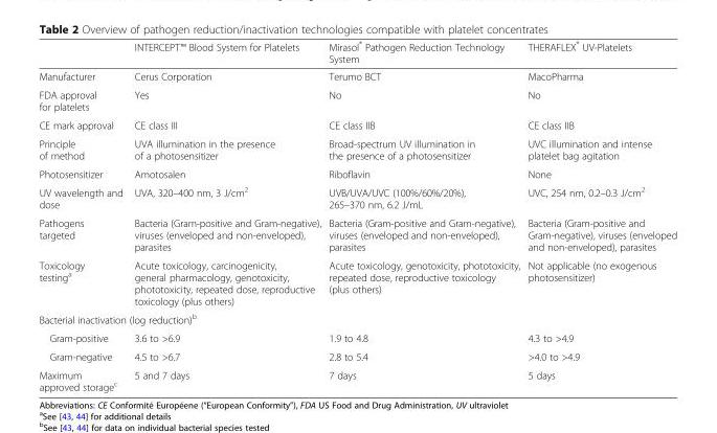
<table><thead><tr><td></td><td>INTERCEPT™ Blood System for Platelets</td><td>Mirasol<sup>®</sup> Pathogen Reduction Technology System</td><td>THERAFLEX<sup>®</sup> UV-Platelets</td></tr></thead><tbody><tr><td>Manufacturer</td><td>Cerus Corporation</td><td>Terumo BCT</td><td>MacoPharma</td></tr><tr><td>FDA approval for platelets</td><td>Yes</td><td>No</td><td>No</td></tr><tr><td>CE mark approval</td><td>CE class III</td><td>CE class IIB</td><td>CE class IIB</td></tr><tr><td>Principle of method</td><td>UVA illumination in the presence of a photosensitizer</td><td>Broad-spectrum UV illumination in the presence of a photosensitizer</td><td>UVC illumination and intense platelet bag agitation</td></tr><tr><td>Photosensitizer</td><td>Amotosalen</td><td>Riboflavin</td><td>None</td></tr><tr><td>UV wavelength and dose</td><td>UVA, 320–400 nm, 3 J/cm<sup>2</sup></td><td>UVB/UVA/UVC (100%/60%/20%), 265–370 nm, 6.2 J/mL</td><td>UVC, 254 nm, 0.2–0.3 J/cm<sup>2</sup></td></tr><tr><td>Pathogens targeted</td><td>Bacteria (Gram-positive and Gram-negative), viruses (enveloped and non-enveloped), parasites</td><td>Bacteria (Gram-positive and Gram-negative), viruses (enveloped and non-enveloped), parasites</td><td>Bacteria (Gram-positive and Gram-negative), viruses (enveloped and non-enveloped), parasites</td></tr><tr><td>Toxicology testing<sup>a</sup></td><td>Acute toxicology, carcinogenicity, general pharmacology, genotoxicity, phototoxicity, repeated dose, reproductive toxicology (plus others)</td><td>Acute toxicology, genotoxicity, phototoxicity, repeated dose, reproductive toxicology (plus others)</td><td>Not applicable (no exogenous photosensitizer)</td></tr><tr><td colspan="4">Bacterial inactivation (log reduction)<sup>b</sup></td></tr><tr><td>Gram-positive</td><td>3.6 to &gt;6.9</td><td>1.9 to 4.8</td><td>4.3 to &gt;4.9</td></tr><tr><td>Gram-negative</td><td>4.5 to &gt;6.7</td><td>2.8 to 5.4</td><td>&gt;4.0 to &gt;4.9</td></tr><tr><td>Maximum approved storage<sup>c</sup></td><td>5 and 7 days</td><td>7 days</td><td>5 days</td></tr></tbody></table>